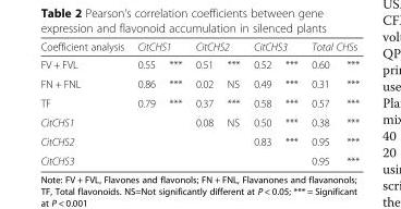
<table><thead><tr><td rowspan="2">Coefficient analysis FV + FVL</td><td colspan="2">CitCHS1</td><td colspan="2">CitCHS2</td><td colspan="2">CitCHS3</td><td colspan="2">Total CHSs</td></tr><tr><td>0.55</td><td>***</td><td>0.51</td><td>***</td><td>0.52</td><td>***</td><td>0.60</td><td>***</td></tr></thead><tbody><tr><td>FN + FNL</td><td>0.86</td><td>***</td><td>0.02</td><td>NS</td><td>0.49</td><td>***</td><td>0.31</td><td>***</td></tr><tr><td>TF</td><td>0.79</td><td>***</td><td>0.37</td><td>***</td><td>0.58</td><td>***</td><td>0.57</td><td>***</td></tr><tr><td>CitCHS1</td><td></td><td></td><td>0.08</td><td>NS</td><td>0.50</td><td>***</td><td>0.38</td><td>***</td></tr><tr><td>CitCHS2</td><td></td><td></td><td></td><td></td><td>0.83</td><td>***</td><td>0.95</td><td>***</td></tr><tr><td>CitCHS3</td><td></td><td></td><td></td><td></td><td></td><td></td><td>0.95</td><td>***</td></tr></tbody></table>